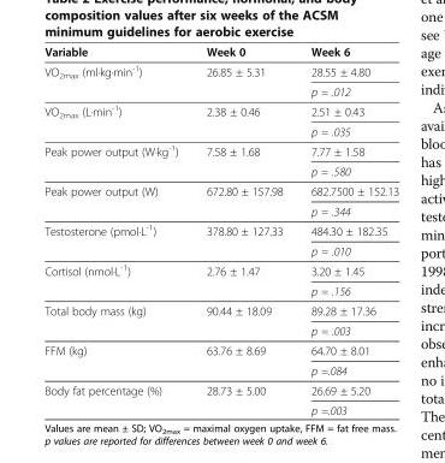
<table><thead><tr><td>Variable</td><td>Week 0</td><td>Week 6</td></tr></thead><tbody><tr><td rowspan="2">VO<sub>2max</sub> (ml·kg·min<sup>-1</sup>)</td><td rowspan="2">26.85 ± 5.31</td><td>28.55 ± 4.80</td></tr><tr><td>p = .012</td></tr><tr><td rowspan="2">VO<sub>2max</sub> (L·min<sup>-1</sup>)</td><td rowspan="2">2.38 ± 0.46</td><td>2.51 ± 0.43</td></tr><tr><td>p = .035</td></tr><tr><td rowspan="2">Peak power output (W·kg<sup>-1</sup>)</td><td rowspan="2">7.58 ± 1.68</td><td>7.77 ± 1.58</td></tr><tr><td>p = .580</td></tr><tr><td rowspan="2">Peak power output (W)</td><td rowspan="2">672.80 ± 157.98</td><td>682.7500 ± 152.13</td></tr><tr><td>p = .344</td></tr><tr><td rowspan="2">Testosterone (pmol·L<sup>-1</sup>)</td><td rowspan="2">378.80 ± 127.33</td><td>484.30 ± 182.35</td></tr><tr><td>p = .010</td></tr><tr><td rowspan="2">Cortisol (nmol·L<sup>-1</sup>)</td><td rowspan="2">2.76 ± 1.47</td><td>3.20 ± 1.45</td></tr><tr><td>p = .156</td></tr><tr><td rowspan="2">Total body mass (kg)</td><td rowspan="2">90.44 ± 18.09</td><td>89.28 ± 17.36</td></tr><tr><td>p = .003</td></tr><tr><td rowspan="2">FFM (kg)</td><td rowspan="2">63.76 ± 8.69</td><td>64.70 ± 8.01</td></tr><tr><td>p =.084</td></tr><tr><td rowspan="2">Body fat percentage (%)</td><td rowspan="2">28.73 ± 5.00</td><td>26.69 ± 5.20</td></tr><tr><td>p =.003</td></tr></tbody></table>